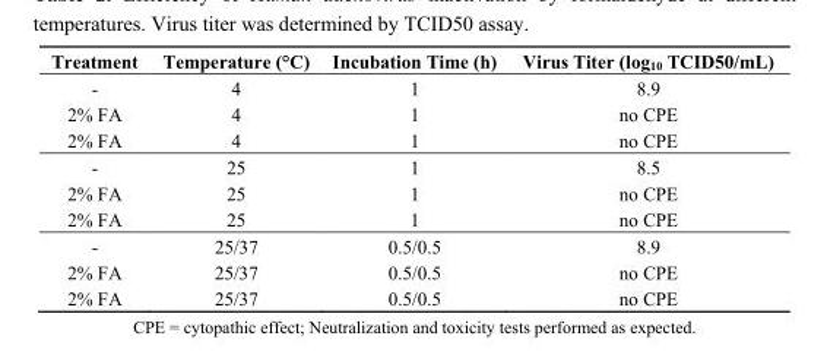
<table><thead><tr><td>Treatment</td><td>Temperature (°C)</td><td>Incubation Time (h)</td><td>Virus Titer (log<sub>10</sub> TCID50/mL)</td></tr></thead><tbody><tr><td>-</td><td>4</td><td>1</td><td>8.9</td></tr><tr><td>2% FA</td><td>4</td><td>1</td><td>no CPE</td></tr><tr><td>2% FA</td><td>4</td><td>1</td><td>no CPE</td></tr><tr><td>-</td><td>25</td><td>1</td><td>8.5</td></tr><tr><td>2% FA</td><td>25</td><td>1</td><td>no CPE</td></tr><tr><td>2% FA</td><td>25</td><td>1</td><td>no CPE</td></tr><tr><td>-</td><td>25/37</td><td>0.5/0.5</td><td>8.9</td></tr><tr><td>2% FA</td><td>25/37</td><td>0.5/0.5</td><td>no CPE</td></tr><tr><td>2% FA</td><td>25/37</td><td>0.5/0.5</td><td>no CPE</td></tr></tbody></table>